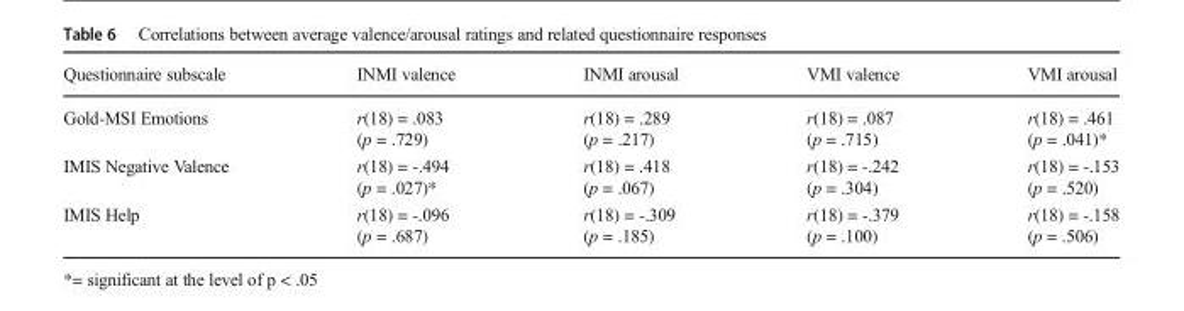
<table><thead><tr><td>Questionnaire subscale</td><td>INMI valence</td><td>INMI arousal</td><td>VMI valence</td><td>VMI arousal</td></tr></thead><tbody><tr><td>Gold-MSI Emotions</td><td>r(18) = .083 (p = .729)</td><td>r(18) = .289 (p = .217)</td><td>r(18) = .087 (p = .715)</td><td>r(18) = .461 (p = .041)*</td></tr><tr><td>IMIS Negative Valence</td><td>r(18) = -.494 (p = .027)*</td><td>r(18) = .418 (p = .067)</td><td>r(18) = -.242 (p = .304)</td><td>r(18) = -.153 (p = .520)</td></tr><tr><td>IMIS Help</td><td>r(18) = -.096 (p = .687)</td><td>r(18) = -.309 (p = .185)</td><td>r(18) = -.379 (p = .100)</td><td>r(18) = -.158 (p = .506)</td></tr></tbody></table>